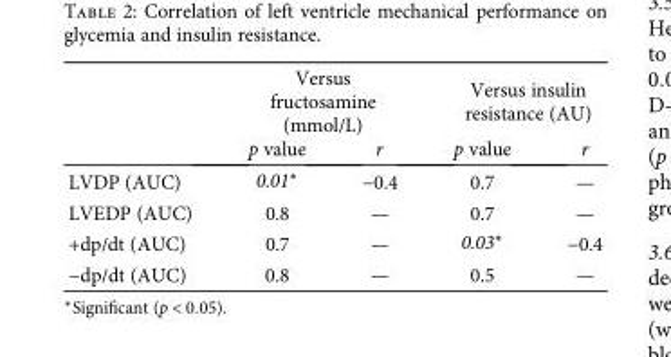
<table><thead><tr><td rowspan="2"></td><td colspan="2">Versus fructosamine (mmol/L)</td><td colspan="2">Versus insulin resistance (AU)</td></tr><tr><td>p value</td><td>r</td><td>p value</td><td>r</td></tr></thead><tbody><tr><td>LVDP (AUC)</td><td>0.01∗</td><td>−0.4</td><td>0.7</td><td>—</td></tr><tr><td>LVEDP (AUC)</td><td>0.8</td><td>—</td><td>0.7</td><td>—</td></tr><tr><td>+dp/dt (AUC)</td><td>0.7</td><td>—</td><td>0.03∗</td><td>−0.4</td></tr><tr><td>−dp/dt (AUC)</td><td>0.8</td><td>—</td><td>0.5</td><td>—</td></tr></tbody></table>